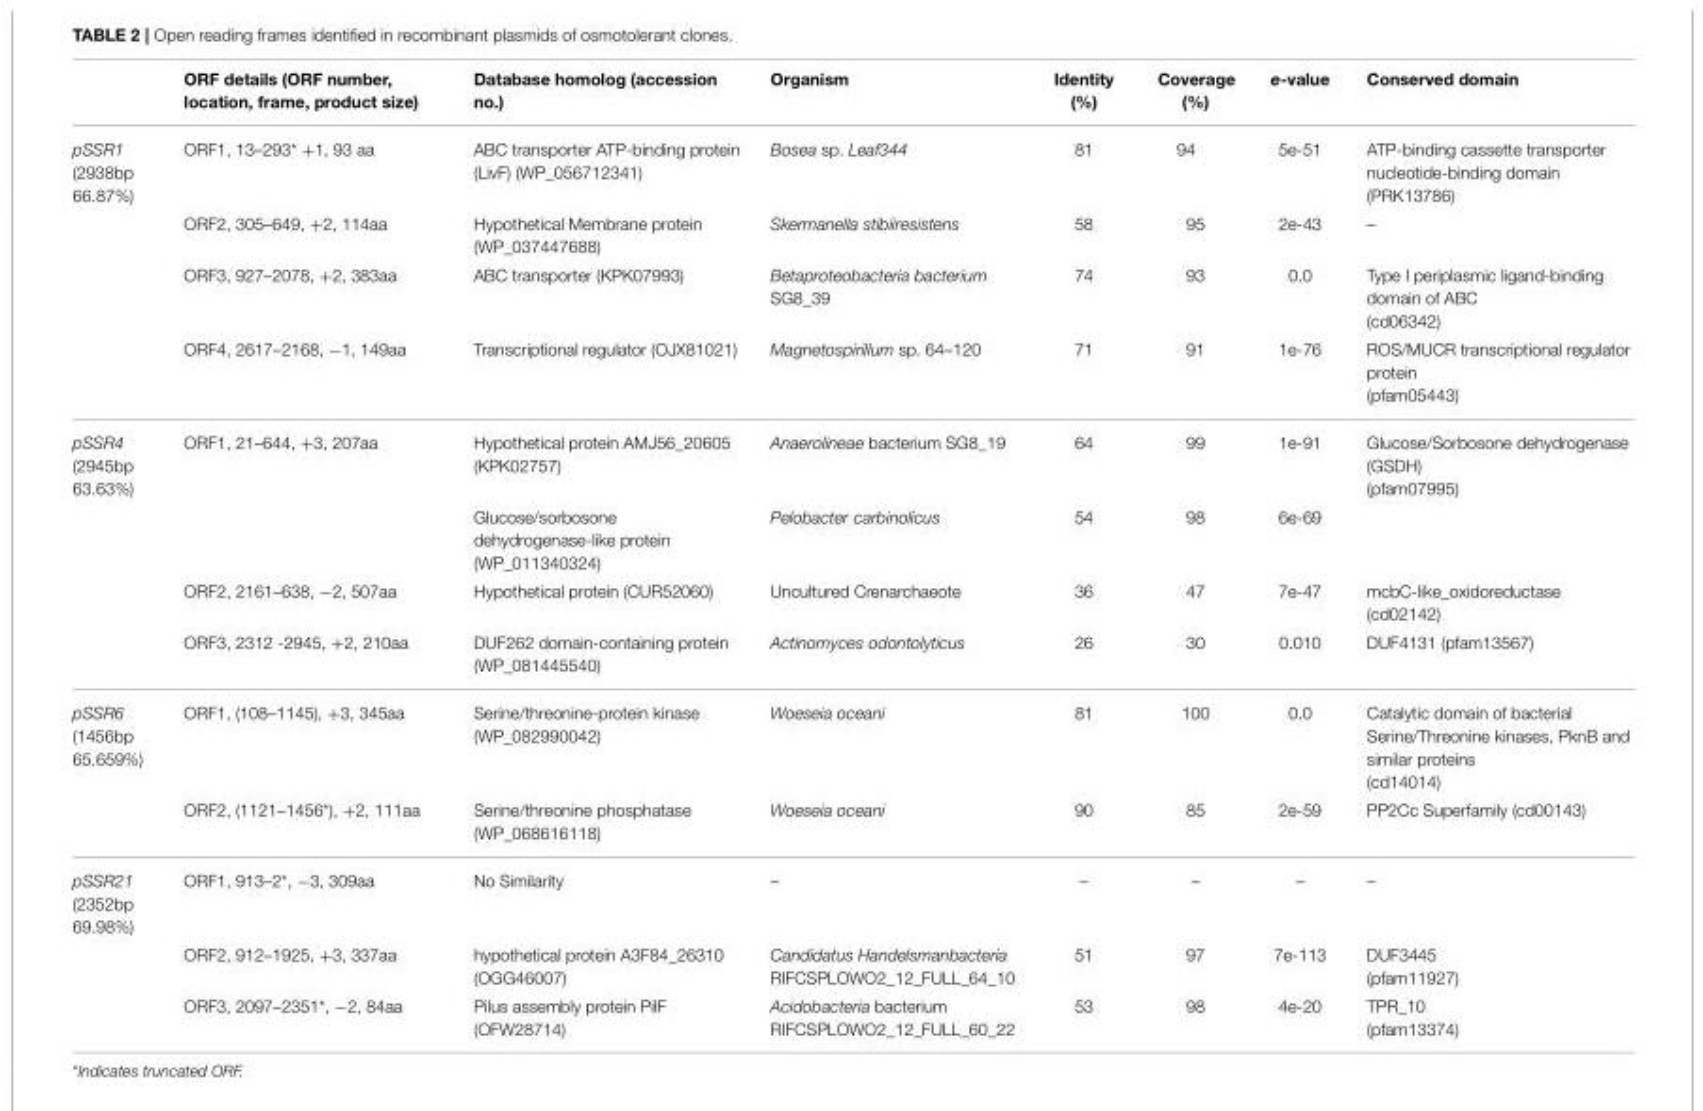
<table><thead><tr><td></td><td>ORF details (ORF number, location, frame, product size)</td><td>Database homolog (accession no.)</td><td>Organism</td><td>Identity (%)</td><td>Coverage (%)</td><td>e-value</td><td>Conserved domain</td></tr></thead><tbody><tr><td rowspan="4">pSSR1 (2938bp 66.87%)</td><td>ORF1, 13–293* +1, 93 aa</td><td>ABC transporter ATP-binding protein (LivF) (WP_056712341)</td><td>Bosea sp. Leaf344</td><td>81</td><td>94</td><td>5e-51</td><td>ATP-binding cassette transporter nucleotide-binding domain (PRK13786)</td></tr><tr><td>ORF2, 305–649, +2, 114aa</td><td>Hypothetical Membrane protein (WP_037447688)</td><td>Skermanella stibiiresistens</td><td>58</td><td>95</td><td>2e-43</td><td>–</td></tr><tr><td>ORF3, 927–2078, +2, 383aa</td><td>ABC transporter (KPK07993)</td><td>Betaproteobacteria bacterium SG8_39</td><td>74</td><td>93</td><td>0.0</td><td>Type I periplasmic ligand-binding domain of ABC (cd06342)</td></tr><tr><td>ORF4, 2617–2168, −1, 149aa</td><td>Transcriptional regulator (OJX81021)</td><td>Magnetospirillum sp. 64–120</td><td>71</td><td>91</td><td>1e-76</td><td>ROS/MUCR transcriptional regulator protein (pfam05443)</td></tr><tr><td rowspan="4">pSSR4 (2945bp 63.63%)</td><td>ORF1, 21–644, +3, 207aa</td><td>Hypothetical protein AMJ56_20605 (KPK02757)</td><td>Anaerolineae bacterium SG8_19</td><td>64</td><td>99</td><td>1e-91</td><td>Glucose/Sorbosone dehydrogenase (GSDH) (pfam07995)</td></tr><tr><td></td><td>Glucose/sorbosone dehydrogenase-like protein (WP_011340324)</td><td>Pelobacter carbinolicus</td><td>54</td><td>98</td><td>6e-69</td><td></td></tr><tr><td>ORF2, 2161–638, −2, 507aa</td><td>Hypothetical protein (CUR52060)</td><td>Uncultured Crenarchaeote</td><td>36</td><td>47</td><td>7e-47</td><td>mcbC-like_oxidoreductase (cd02142)</td></tr><tr><td>ORF3, 2312 -2945, +2, 210aa</td><td>DUF262 domain-containing protein (WP_081445540)</td><td>Actinomyces odontolyticus</td><td>26</td><td>30</td><td>0.010</td><td>DUF4131 (pfam13567)</td></tr><tr><td rowspan="2">pSSR6 (1456bp 65.659%)</td><td>ORF1, (108–1145), +3, 345aa</td><td>Serine/threonine-protein kinase (WP_082990042)</td><td>Woeseia oceani</td><td>81</td><td>100</td><td>0.0</td><td>Catalytic domain of bacterial Serine/Threonine kinases, PknB and similar proteins (cd14014)</td></tr><tr><td>ORF2, (1121–1456*), +2, 111aa</td><td>Serine/threonine phosphatase (WP_068616118)</td><td>Woeseia oceani</td><td>90</td><td>85</td><td>2e-59</td><td>PP2Cc Superfamily (cd00143)</td></tr><tr><td rowspan="3">pSSR21 (2352bp 69.98%)</td><td>ORF1, 913–2*, −3, 309aa</td><td>No Similarity</td><td>–</td><td>–</td><td>–</td><td>–</td><td>–</td></tr><tr><td>ORF2, 912–1925, +3, 337aa</td><td>hypothetical protein A3F84_26310 (OGG46007)</td><td>Candidatus Handelsmanbacteria RIFCSPLOWO2_12_FULL_64_10</td><td>51</td><td>97</td><td>7e-113</td><td>DUF3445 (pfam11927)</td></tr><tr><td>ORF3, 2097–2351*, −2, 84aa</td><td>Pilus assembly protein PilF (OFW28714)</td><td>Acidobacteria bacterium RIFCSPLOWO2_12_FULL_60_22</td><td>53</td><td>98</td><td>4e-20</td><td>TPR_10 (pfam13374)</td></tr></tbody></table>